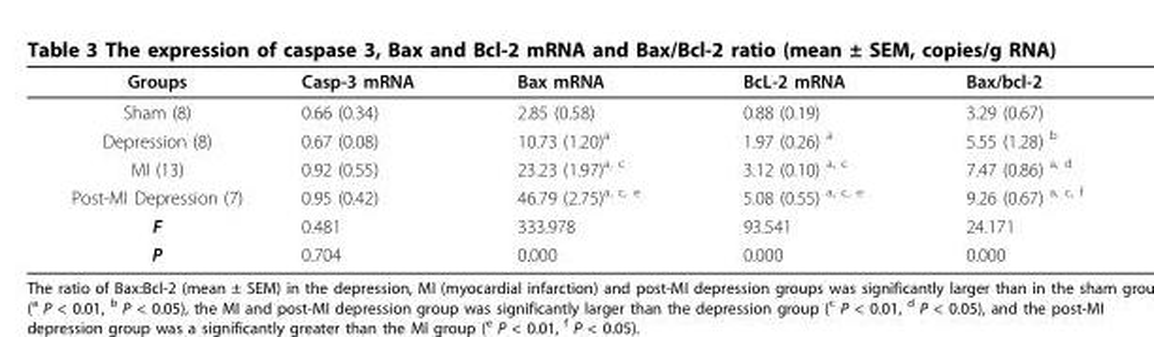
<table><thead><tr><td>Groups</td><td>Casp-3 mRNA</td><td>Bax mRNA</td><td>BcL-2 mRNA</td><td>Bax/bcl-2</td></tr></thead><tbody><tr><td>Sham (8)</td><td>0.66 (0.34)</td><td>2.85 (0.58)</td><td>0.88 (0.19)</td><td>3.29 (0.67)</td></tr><tr><td>Depression (8)</td><td>0.67 (0.08)</td><td>10.73 (1.20)<sup>a</sup></td><td>1.97 (0.26) <sup>a</sup></td><td>5.55 (1.28) <sup>b</sup></td></tr><tr><td>MI (13)</td><td>0.92 (0.55)</td><td>23.23 (1.97)<sup>a, c</sup></td><td>3.12 (0.10) <sup>a, c</sup></td><td>7.47 (0.86) <sup>a, d</sup></td></tr><tr><td>Post-MI Depression (7)</td><td>0.95 (0.42)</td><td>46.79 (2.75)<sup>a, c, e</sup></td><td>5.08 (0.55) <sup>a, c, e</sup></td><td>9.26 (0.67) <sup>a, c, f</sup></td></tr><tr><td>F</td><td>0.481</td><td>333.978</td><td>93.541</td><td>24.171</td></tr><tr><td>P</td><td>0.704</td><td>0.000</td><td>0.000</td><td>0.000</td></tr></tbody></table>